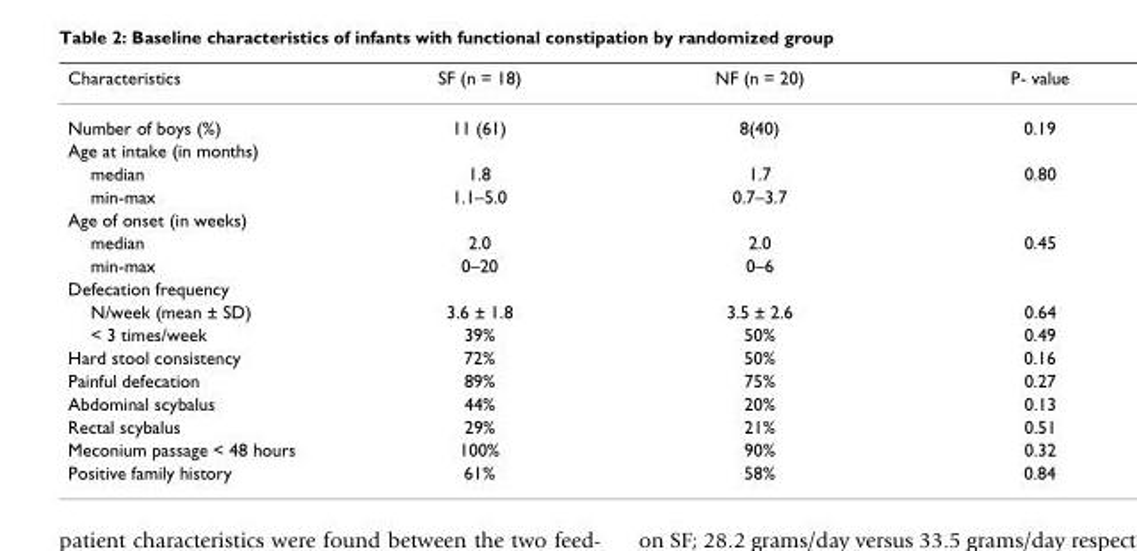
<table><thead><tr><td>Characteristics</td><td>SF (n = 18)</td><td>NF (n = 20)</td><td>P- value</td></tr></thead><tbody><tr><td>Number of boys (%)</td><td>11 (61)</td><td>8(40)</td><td>0.19</td></tr><tr><td colspan="4">Age at intake (in months)</td></tr><tr><td>median</td><td>1.8</td><td>1.7</td><td>0.80</td></tr><tr><td>min-max</td><td>1.1–5.0</td><td>0.7–3.7</td><td></td></tr><tr><td colspan="4">Age of onset (in weeks)</td></tr><tr><td>median</td><td>2.0</td><td>2.0</td><td>0.45</td></tr><tr><td>min-max</td><td>0–20</td><td>0–6</td><td></td></tr><tr><td colspan="4">Defecation frequency</td></tr><tr><td>N/week (mean ± SD)</td><td>3.6 ± 1.8</td><td>3.5 ± 2.6</td><td>0.64</td></tr><tr><td>&lt; 3 times/week</td><td>39%</td><td>50%</td><td>0.49</td></tr><tr><td>Hard stool consistency</td><td>72%</td><td>50%</td><td>0.16</td></tr><tr><td>Painful defecation</td><td>89%</td><td>75%</td><td>0.27</td></tr><tr><td>Abdominal scybalus</td><td>44%</td><td>20%</td><td>0.13</td></tr><tr><td>Rectal scybalus</td><td>29%</td><td>21%</td><td>0.51</td></tr><tr><td>Meconium passage &lt; 48 hours</td><td>100%</td><td>90%</td><td>0.32</td></tr><tr><td>Positive family history</td><td>61%</td><td>58%</td><td>0.84</td></tr></tbody></table>